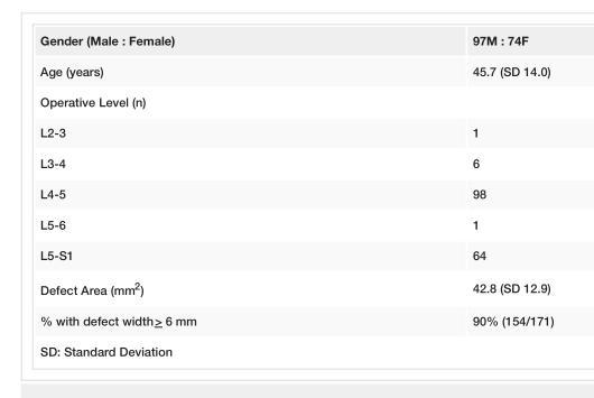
<table><tbody><tr><td>Gender (Male : Female)</td><td>97M : 74F</td></tr><tr><td>Age (years)</td><td>45.7 (SD 14.0)</td></tr><tr><td colspan="2">Operative Level (n)</td></tr><tr><td>L2-3</td><td>1</td></tr><tr><td>L3-4</td><td>6</td></tr><tr><td>L4-5</td><td>98</td></tr><tr><td>L5-6</td><td>1</td></tr><tr><td>L5-S1</td><td>64</td></tr><tr><td>Defect Area (mm<sup>2</sup>)</td><td>42.8 (SD 12.9)</td></tr><tr><td>% with defect width &gt; 6 mm</td><td>90% (154/171)</td></tr><tr><td colspan="2">SD: Standard Deviation</td></tr></tbody></table>